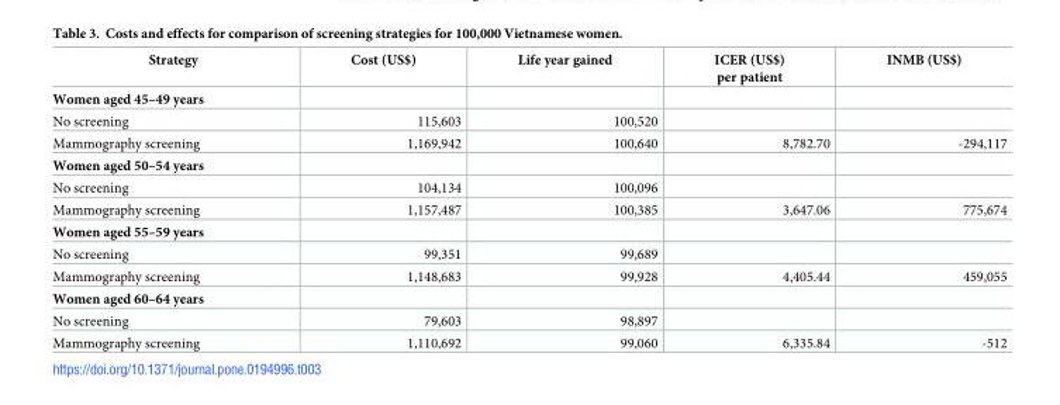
<table><thead><tr><td>Strategy</td><td>Cost (US$)</td><td>Life year gained</td><td>ICER (US$) per patient</td><td>INMB (US$)</td></tr></thead><tbody><tr><td colspan="5">Women aged 45–49 years</td></tr><tr><td>No screening</td><td>115,603</td><td>100,520</td><td></td><td></td></tr><tr><td>Mammography screening</td><td>1,169,942</td><td>100,640</td><td>8,782.70</td><td>-294,117</td></tr><tr><td colspan="5">Women aged 50–54 years</td></tr><tr><td>No screening</td><td>104,134</td><td>100,096</td><td></td><td></td></tr><tr><td>Mammography screening</td><td>1,157,487</td><td>100,385</td><td>3,647.06</td><td>775,674</td></tr><tr><td colspan="5">Women aged 55–59 years</td></tr><tr><td>No screening</td><td>99,351</td><td>99,689</td><td></td><td></td></tr><tr><td>Mammography screening</td><td>1,148,683</td><td>99,928</td><td>4,405.44</td><td>459,055</td></tr><tr><td colspan="5">Women aged 60–64 years</td></tr><tr><td>No screening</td><td>79,603</td><td>98,897</td><td></td><td></td></tr><tr><td>Mammography screening</td><td>1,110,692</td><td>99,060</td><td>6,335.84</td><td>-512</td></tr></tbody></table>